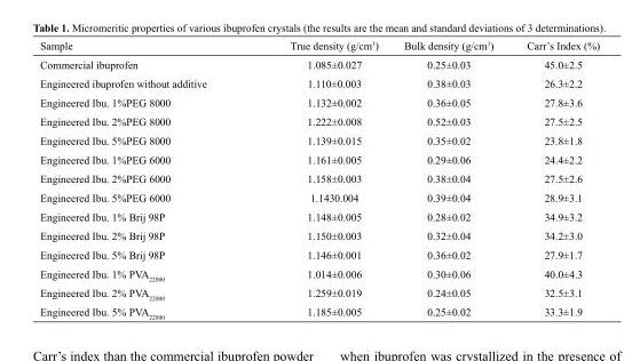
<table><thead><tr><td>Sample</td><td>True density (g/cm<sup>3</sup>)</td><td>Bulk density (g/cm<sup>3</sup>)</td><td>Carr’s Index (%)</td></tr></thead><tbody><tr><td>Commercial ibuprofen</td><td>1.085±0.027</td><td>0.25±0.03</td><td>45.0±2.5</td></tr><tr><td>Engineered ibuprofen without additive</td><td>1.110±0.003</td><td>0.38±0.03</td><td>26.3±2.2</td></tr><tr><td>Engineered Ibu. 1%PEG 8000</td><td>1.132±0.002</td><td>0.36±0.05</td><td>27.8±3.6</td></tr><tr><td>Engineered Ibu. 2%PEG 8000</td><td>1.222±0.008</td><td>0.52±0.03</td><td>27.5±2.5</td></tr><tr><td>Engineered Ibu. 5%PEG 8000</td><td>1.139±0.015</td><td>0.35±0.02</td><td>23.8±1.8</td></tr><tr><td>Engineered Ibu. 1%PEG 6000</td><td>1.161±0.005</td><td>0.29±0.06</td><td>24.4±2.2</td></tr><tr><td>Engineered Ibu. 2%PEG 6000</td><td>1.158±0.003</td><td>0.38±0.04</td><td>27.5±2.6</td></tr><tr><td>Engineered Ibu. 5%PEG 6000</td><td>1.1430.004</td><td>0.39±0.04</td><td>28.9±3.1</td></tr><tr><td>Engineered Ibu. 1% Brij 98P</td><td>1.148±0.005</td><td>0.28±0.02</td><td>34.9±3.2</td></tr><tr><td>Engineered Ibu. 2% Brij 98P</td><td>1.150±0.003</td><td>0.32±0.04</td><td>34.2±3.0</td></tr><tr><td>Engineered Ibu. 5% Brij 98P</td><td>1.146±0.001</td><td>0.36±0.02</td><td>27.9±1.7</td></tr><tr><td>Engineered Ibu. 1% PVA<sub>22000</sub></td><td>1.014±0.006</td><td>0.30±0.06</td><td>40.0±4.3</td></tr><tr><td>Engineered Ibu. 2% PVA<sub>22000</sub></td><td>1.259±0.019</td><td>0.24±0.05</td><td>32.5±3.1</td></tr><tr><td>Engineered Ibu. 5% PVA<sub>22000</sub></td><td>1.185±0.005</td><td>0.25±0.02</td><td>33.3±1.9</td></tr></tbody></table>